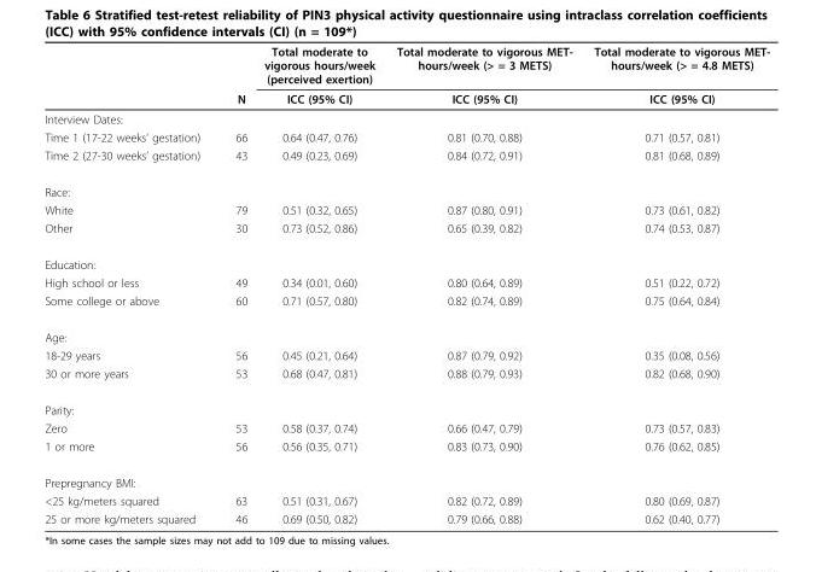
<table><thead><tr><td rowspan="2"></td><td rowspan="2">N</td><td rowspan="2">Total moderate to vigorous hours/week (perceived exertion) ICC (95% CI)</td><td rowspan="2">Total moderate to vigorous MET- hours/week (&gt; = 3 METS) ICC (95% CI)</td><td rowspan="2">Total moderate to vigorous MET- hours/week (&gt; = 4.8 METS) ICC (95% CI)</td></tr><tr></tr></thead><tbody><tr><td colspan="5">Interview Dates:</td></tr><tr><td>Time 1 (17-22 weeks’ gestation)</td><td>66</td><td>0.64 (0.47, 0.76)</td><td>0.81 (0.70, 0.88)</td><td>0.71 (0.57, 0.81)</td></tr><tr><td>Time 2 (27-30 weeks’ gestation)</td><td>43</td><td>0.49 (0.23, 0.69)</td><td>0.84 (0.72, 0.91)</td><td>0.81 (0.68, 0.89)</td></tr><tr><td colspan="5">Race:</td></tr><tr><td>White</td><td>79</td><td>0.51 (0.32, 0.65)</td><td>0.87 (0.80, 0.91)</td><td>0.73 (0.61, 0.82)</td></tr><tr><td>Other</td><td>30</td><td>0.73 (0.52, 0.86)</td><td>0.65 (0.39, 0.82)</td><td>0.74 (0.53, 0.87)</td></tr><tr><td colspan="5">Education:</td></tr><tr><td>High school or less</td><td>49</td><td>0.34 (0.01, 0.60)</td><td>0.80 (0.64, 0.89)</td><td>0.51 (0.22, 0.72)</td></tr><tr><td>Some college or above</td><td>60</td><td>0.71 (0.57, 0.80)</td><td>0.82 (0.74, 0.89)</td><td>0.75 (0.64, 0.84)</td></tr><tr><td colspan="5">Age:</td></tr><tr><td>18-29 years</td><td>56</td><td>0.45 (0.21, 0.64)</td><td>0.87 (0.79, 0.92)</td><td>0.35 (0.08, 0.56)</td></tr><tr><td>30 or more years</td><td>53</td><td>0.68 (0.47, 0.81)</td><td>0.88 (0.79, 0.93)</td><td>0.82 (0.68, 0.90)</td></tr><tr><td colspan="5">Parity:</td></tr><tr><td>Zero</td><td>53</td><td>0.58 (0.37, 0.74)</td><td>0.66 (0.47, 0.79)</td><td>0.73 (0.57, 0.83)</td></tr><tr><td>1 or more</td><td>56</td><td>0.56 (0.35, 0.71)</td><td>0.83 (0.73, 0.90)</td><td>0.76 (0.62, 0.85)</td></tr><tr><td colspan="5">Prepregnancy BMI:</td></tr><tr><td>&lt;25 kg/meters squared</td><td>63</td><td>0.51 (0.31, 0.67)</td><td>0.82 (0.72, 0.89)</td><td>0.80 (0.69, 0.87)</td></tr><tr><td>25 or more kg/meters squared</td><td>46</td><td>0.69 (0.50, 0.82)</td><td>0.79 (0.66, 0.88)</td><td>0.62 (0.40, 0.77)</td></tr></tbody></table>